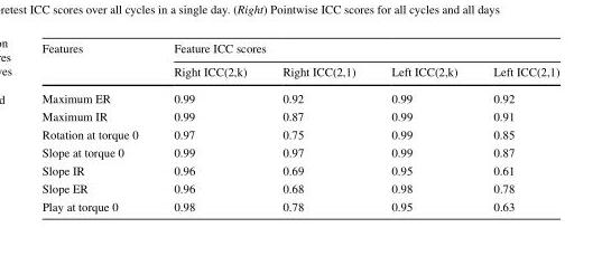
<table><thead><tr><td rowspan="2">Features</td><td colspan="4">Feature ICC scores</td></tr><tr><td>Right ICC(2,k)</td><td>Right ICC(2,1)</td><td>Left ICC(2,k)</td><td>Left ICC(2,1)</td></tr></thead><tbody><tr><td>Maximum ER</td><td>0.99</td><td>0.92</td><td>0.99</td><td>0.92</td></tr><tr><td>Maximum IR</td><td>0.99</td><td>0.87</td><td>0.99</td><td>0.91</td></tr><tr><td>Rotation at torque 0</td><td>0.97</td><td>0.75</td><td>0.99</td><td>0.85</td></tr><tr><td>Slope at torque 0</td><td>0.99</td><td>0.97</td><td>0.99</td><td>0.87</td></tr><tr><td>Slope IR</td><td>0.96</td><td>0.69</td><td>0.95</td><td>0.61</td></tr><tr><td>Slope ER</td><td>0.96</td><td>0.68</td><td>0.98</td><td>0.78</td></tr><tr><td>Play at torque 0</td><td>0.98</td><td>0.78</td><td>0.95</td><td>0.63</td></tr></tbody></table>